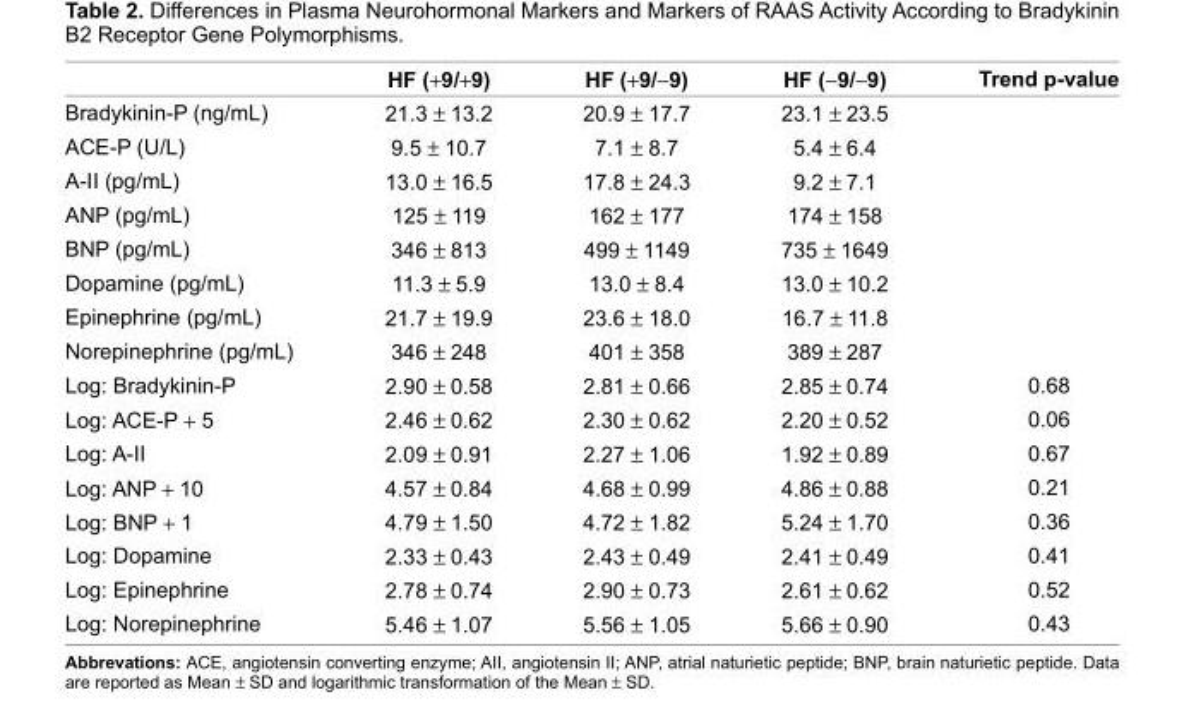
<table><thead><tr><td></td><td>HF (+9/+9)</td><td>HF (+9/−9)</td><td>HF (−9/−9)</td><td>Trend p-value</td></tr></thead><tbody><tr><td>Bradykinin-P (ng/mL)</td><td>21.3 ± 13.2</td><td>20.9 ± 17.7</td><td>23.1 ± 23.5</td><td></td></tr><tr><td>ACE-P (U/L)</td><td>9.5 ± 10.7</td><td>7.1 ± 8.7</td><td>5.4 ± 6.4</td><td></td></tr><tr><td>A-II (pg/mL)</td><td>13.0 ± 16.5</td><td>17.8 ± 24.3</td><td>9.2 ± 7.1</td><td></td></tr><tr><td>ANP (pg/mL)</td><td>125 ± 119</td><td>162 ± 177</td><td>174 ± 158</td><td></td></tr><tr><td>BNP (pg/mL)</td><td>346 ± 813</td><td>499 ± 1149</td><td>735 ± 1649</td><td></td></tr><tr><td>Dopamine (pg/mL)</td><td>11.3 ± 5.9</td><td>13.0 ± 8.4</td><td>13.0 ± 10.2</td><td></td></tr><tr><td>Epinephrine (pg/mL)</td><td>21.7 ± 19.9</td><td>23.6 ± 18.0</td><td>16.7 ± 11.8</td><td></td></tr><tr><td>Norepinephrine (pg/mL)</td><td>346 ± 248</td><td>401 ± 358</td><td>389 ± 287</td><td></td></tr><tr><td>Log: Bradykinin-P</td><td>2.90 ± 0.58</td><td>2.81 ± 0.66</td><td>2.85 ± 0.74</td><td>0.68</td></tr><tr><td>Log: ACE-P + 5</td><td>2.46 ± 0.62</td><td>2.30 ± 0.62</td><td>2.20 ± 0.52</td><td>0.06</td></tr><tr><td>Log: A-II</td><td>2.09 ± 0.91</td><td>2.27 ± 1.06</td><td>1.92 ± 0.89</td><td>0.67</td></tr><tr><td>Log: ANP + 10</td><td>4.57 ± 0.84</td><td>4.68 ± 0.99</td><td>4.86 ± 0.88</td><td>0.21</td></tr><tr><td>Log: BNP + 1</td><td>4.79 ± 1.50</td><td>4.72 ± 1.82</td><td>5.24 ± 1.70</td><td>0.36</td></tr><tr><td>Log: Dopamine</td><td>2.33 ± 0.43</td><td>2.43 ± 0.49</td><td>2.41 ± 0.49</td><td>0.41</td></tr><tr><td>Log: Epinephrine</td><td>2.78 ± 0.74</td><td>2.90 ± 0.73</td><td>2.61 ± 0.62</td><td>0.52</td></tr><tr><td>Log: Norepinephrine</td><td>5.46 ± 1.07</td><td>5.56 ± 1.05</td><td>5.66 ± 0.90</td><td>0.43</td></tr></tbody></table>